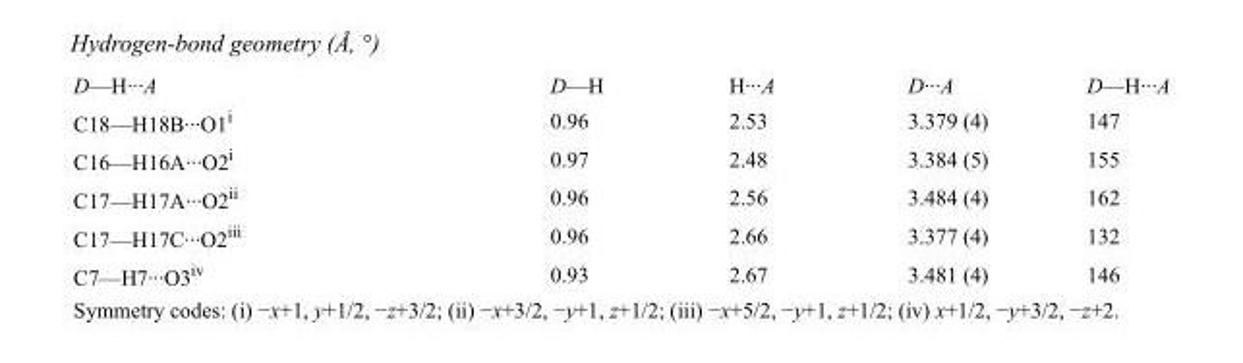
<table><tbody><tr><td>D—H···A</td><td>D—H</td><td>H···A</td><td>D···A</td><td>D—H···A</td></tr><tr><td>C18—H18B···O1<sup>i</sup></td><td>0.96</td><td>2.53</td><td>3.379 (4)</td><td>147</td></tr><tr><td>C16—H16A···O2<sup>i</sup></td><td>0.97</td><td>2.48</td><td>3.384 (5)</td><td>155</td></tr><tr><td>C17—H17A···O2<sup>ii</sup></td><td>0.96</td><td>2.56</td><td>3.484 (4)</td><td>162</td></tr><tr><td>C17—H17C···O2<sup>iii</sup></td><td>0.96</td><td>2.66</td><td>3.377 (4)</td><td>132</td></tr><tr><td>C7—H7···O3<sup>iv</sup></td><td>0.93</td><td>2.67</td><td>3.481 (4)</td><td>146</td></tr></tbody></table>